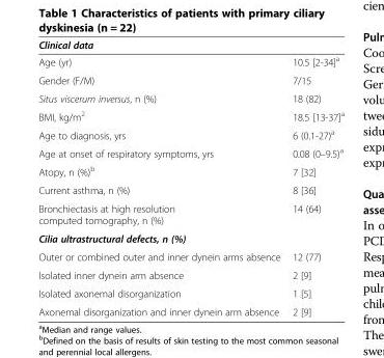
<table><thead><tr><td>Clinical data</td><td></td></tr></thead><tbody><tr><td>Age (yr)</td><td>10.5 [2-34]<sup>a</sup></td></tr><tr><td>Gender (F/M)</td><td>7/15</td></tr><tr><td>Situs viscerum inversus, n (%)</td><td>18 (82)</td></tr><tr><td>BMI, kg/m<sup>2</sup></td><td>18.5 [13-37]<sup>a</sup></td></tr><tr><td>Age to diagnosis, yrs</td><td>6 (0.1-27)<sup>a</sup></td></tr><tr><td>Age at onset of respiratory symptoms, yrs</td><td>0.08 (0–9.5)<sup>a</sup></td></tr><tr><td>Atopy, n (%)<sup>b</sup></td><td>7 [32]</td></tr><tr><td>Current asthma, n (%)</td><td>8 [36]</td></tr><tr><td>Bronchiectasis at high resolution computed tomography, n (%)</td><td>14 (64)</td></tr><tr><td colspan="2">Cilia ultrastructural defects, n (%)</td></tr><tr><td>Outer or combined outer and inner dynein arms absence</td><td>12 (77)</td></tr><tr><td>Isolated inner dynein arm absence</td><td>2 [9]</td></tr><tr><td>Isolated axonemal disorganization</td><td>1 [5]</td></tr><tr><td>Axonemal disorganization and inner dynein arm absence</td><td>2 [9]</td></tr></tbody></table>